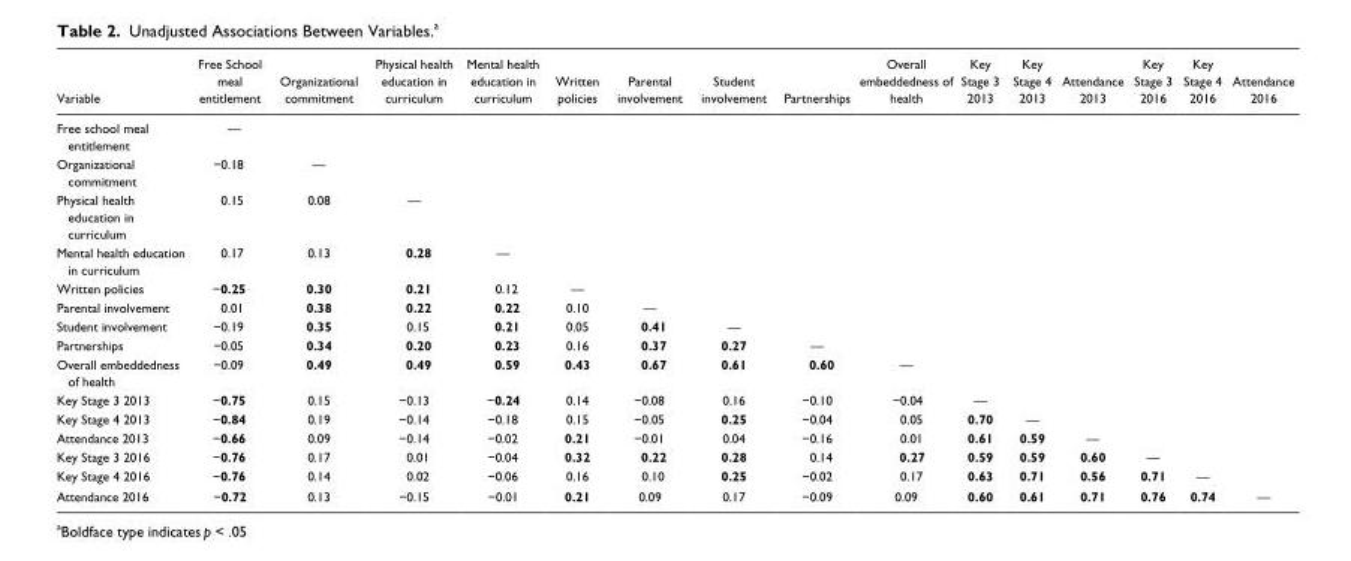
<table><thead><tr><td>Variable</td><td>Free School meal entitlement</td><td>Organizational commitment</td><td>Physical health education in curriculum</td><td>Mental health education in curriculum</td><td>Written policies</td><td>Parental involvement</td><td>Student involvement</td><td>Partnerships</td><td>Overall embeddedness of health</td><td>Key Stage 3 2013</td><td>Key Stage 4 2013</td><td>Attendance 2013</td><td>Key Stage 3 2016</td><td>Key Stage 4 2016</td><td>Attendance 2016</td></tr></thead><tbody><tr><td>Free school meal entitlement</td><td>—</td><td></td><td></td><td></td><td></td><td></td><td></td><td></td><td></td><td></td><td></td><td></td><td></td><td></td><td></td></tr><tr><td>Organizational commitment</td><td>−0.18</td><td>—</td><td></td><td></td><td></td><td></td><td></td><td></td><td></td><td></td><td></td><td></td><td></td><td></td><td></td></tr><tr><td>Physical health education in curriculum</td><td>0.15</td><td>0.08</td><td>—</td><td></td><td></td><td></td><td></td><td></td><td></td><td></td><td></td><td></td><td></td><td></td><td></td></tr><tr><td>Mental health education in curriculum</td><td>0.17</td><td>0.13</td><td>0.28</td><td>—</td><td></td><td></td><td></td><td></td><td></td><td></td><td></td><td></td><td></td><td></td><td></td></tr><tr><td>Written policies</td><td>−0.25</td><td>0.30</td><td>0.21</td><td>0.12</td><td>—</td><td></td><td></td><td></td><td></td><td></td><td></td><td></td><td></td><td></td><td></td></tr><tr><td>Parental involvement</td><td>0.01</td><td>0.38</td><td>0.22</td><td>0.22</td><td>0.10</td><td>—</td><td></td><td></td><td></td><td></td><td></td><td></td><td></td><td></td><td></td></tr><tr><td>Student involvement</td><td>−0.19</td><td>0.35</td><td>0.15</td><td>0.21</td><td>0.05</td><td>0.41</td><td>—</td><td></td><td></td><td></td><td></td><td></td><td></td><td></td><td></td></tr><tr><td>Partnerships</td><td>−0.05</td><td>0.34</td><td>0.20</td><td>0.23</td><td>0.16</td><td>0.37</td><td>0.27</td><td>—</td><td></td><td></td><td></td><td></td><td></td><td></td><td></td></tr><tr><td>Overall embeddedness of health</td><td>−0.09</td><td>0.49</td><td>0.49</td><td>0.59</td><td>0.43</td><td>0.67</td><td>0.61</td><td>0.60</td><td>—</td><td></td><td></td><td></td><td></td><td></td><td></td></tr><tr><td>Key Stage 3 2013</td><td>−0.75</td><td>0.15</td><td>−0.13</td><td>−0.24</td><td>0.14</td><td>−0.08</td><td>0.16</td><td>−0.10</td><td>−0.04</td><td>—</td><td></td><td></td><td></td><td></td><td></td></tr><tr><td>Key Stage 4 2013</td><td>−0.84</td><td>0.19</td><td>−0.14</td><td>−0.18</td><td>0.15</td><td>−0.05</td><td>0.25</td><td>−0.04</td><td>0.05</td><td>0.70</td><td>—</td><td></td><td></td><td></td><td></td></tr><tr><td>Attendance 2013</td><td>−0.66</td><td>0.09</td><td>−0.14</td><td>−0.02</td><td>0.21</td><td>−0.01</td><td>0.04</td><td>−0.16</td><td>0.01</td><td>0.61</td><td>0.59</td><td>—</td><td></td><td></td><td></td></tr><tr><td>Key Stage 3 2016</td><td>−0.76</td><td>0.17</td><td>0.01</td><td>−0.04</td><td>0.32</td><td>0.22</td><td>0.28</td><td>0.14</td><td>0.27</td><td>0.59</td><td>0.59</td><td>0.60</td><td>—</td><td></td><td></td></tr><tr><td>Key Stage 4 2016</td><td>−0.76</td><td>0.14</td><td>0.02</td><td>−0.06</td><td>0.16</td><td>0.10</td><td>0.25</td><td>−0.02</td><td>0.17</td><td>0.63</td><td>0.71</td><td>0.56</td><td>0.71</td><td>—</td><td></td></tr><tr><td>Attendance 2016</td><td>−0.72</td><td>0.13</td><td>−0.15</td><td>−0.01</td><td>0.21</td><td>0.09</td><td>0.17</td><td>−0.09</td><td>0.09</td><td>0.60</td><td>0.61</td><td>0.71</td><td>0.76</td><td>0.74</td><td>—</td></tr></tbody></table>